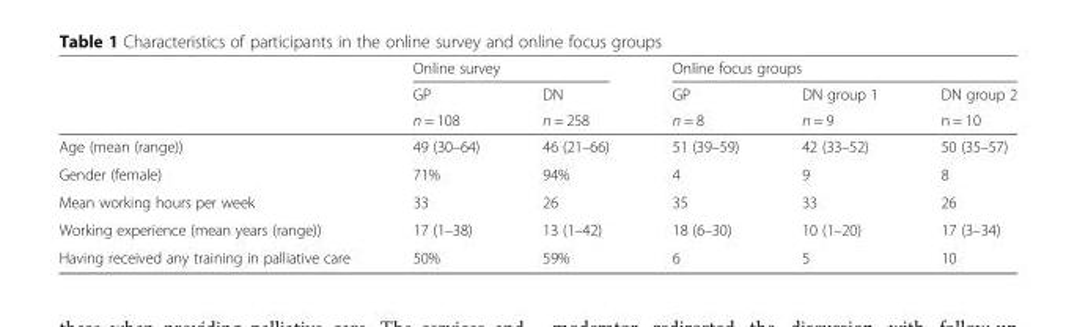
<table><thead><tr><td rowspan="3"></td><td colspan="2">Online survey</td><td colspan="3">Online focus groups</td></tr><tr><td rowspan="2">GP n = 108</td><td rowspan="2">DN n = 258</td><td rowspan="2">GP n = 8</td><td rowspan="2">DN group 1 n = 9</td><td rowspan="2">DN group 2 n = 10</td></tr><tr></tr></thead><tbody><tr><td>Age (mean (range))</td><td>49 (30–64)</td><td>46 (21–66)</td><td>51 (39–59)</td><td>42 (33–52)</td><td>50 (35–57)</td></tr><tr><td>Gender (female)</td><td>71%</td><td>94%</td><td>4</td><td>9</td><td>8</td></tr><tr><td>Mean working hours per week</td><td>33</td><td>26</td><td>35</td><td>33</td><td>26</td></tr><tr><td>Working experience (mean years (range))</td><td>17 (1–38)</td><td>13 (1–42)</td><td>18 (6–30)</td><td>10 (1–20)</td><td>17 (3–34)</td></tr><tr><td>Having received any training in palliative care</td><td>50%</td><td>59%</td><td>6</td><td>5</td><td>10</td></tr></tbody></table>